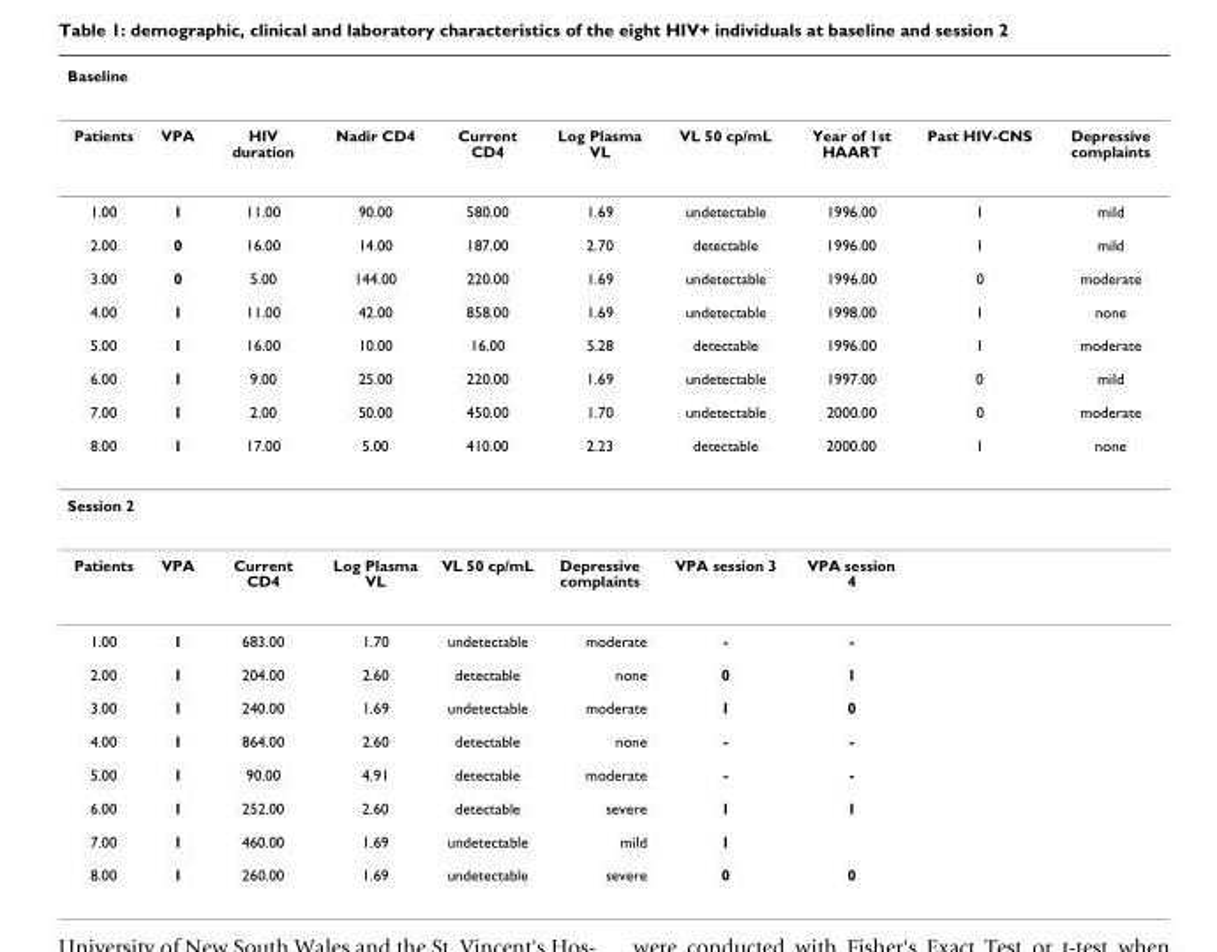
<table><thead><tr><td colspan="10">Baseline</td></tr><tr><td>Patients</td><td>VPA</td><td>HIV duration</td><td>Nadir CD4</td><td>Current CD4</td><td>Log Plasma VL</td><td>VL 50 cp/mL</td><td>Year of 1st HAART</td><td>Past HIV-CNS</td><td>Depressive complaints</td></tr></thead><tbody><tr><td>1.00</td><td>1</td><td>11.00</td><td>90.00</td><td>580.00</td><td>1.69</td><td>undetectable</td><td>1996.00</td><td>1</td><td>mild</td></tr><tr><td>2.00</td><td>0</td><td>16.00</td><td>14.00</td><td>187.00</td><td>2.70</td><td>detectable</td><td>1996.00</td><td>1</td><td>mild</td></tr><tr><td>3.00</td><td>0</td><td>5.00</td><td>144.00</td><td>220.00</td><td>1.69</td><td>undetectable</td><td>1996.00</td><td>0</td><td>moderate</td></tr><tr><td>4.00</td><td>1</td><td>11.00</td><td>42.00</td><td>858.00</td><td>1.69</td><td>undetectable</td><td>1998.00</td><td>1</td><td>none</td></tr><tr><td>5.00</td><td>1</td><td>16.00</td><td>10.00</td><td>16.00</td><td>5.28</td><td>detectable</td><td>1996.00</td><td>1</td><td>moderate</td></tr><tr><td>6.00</td><td>1</td><td>9.00</td><td>25.00</td><td>220.00</td><td>1.69</td><td>undetectable</td><td>1997.00</td><td>0</td><td>mild</td></tr><tr><td>7.00</td><td>1</td><td>2.00</td><td>50.00</td><td>450.00</td><td>1.70</td><td>undetectable</td><td>2000.00</td><td>0</td><td>moderate</td></tr><tr><td>8.00</td><td>1</td><td>17.00</td><td>5.00</td><td>410.00</td><td>2.23</td><td>detectable</td><td>2000.00</td><td>1</td><td>none</td></tr><tr><td colspan="10">Session 2</td></tr><tr><td>Patients</td><td>VPA</td><td>Current CD4</td><td>Log Plasma VL</td><td>VL 50 cp/mL</td><td>Depressive complaints</td><td>VPA session 3</td><td>VPA session 4</td><td></td><td></td></tr><tr><td>1.00</td><td>1</td><td>683.00</td><td>1.70</td><td>undetectable</td><td>moderate</td><td>-</td><td>-</td><td></td><td></td></tr><tr><td>2.00</td><td>1</td><td>204.00</td><td>2.60</td><td>detectable</td><td>none</td><td>0</td><td>1</td><td></td><td></td></tr><tr><td>3.00</td><td>1</td><td>240.00</td><td>1.69</td><td>undetectable</td><td>moderate</td><td>1</td><td>0</td><td></td><td></td></tr><tr><td>4.00</td><td>1</td><td>864.00</td><td>2.60</td><td>detectable</td><td>none</td><td>-</td><td>-</td><td></td><td></td></tr><tr><td>5.00</td><td>1</td><td>90.00</td><td>4.91</td><td>detectable</td><td>moderate</td><td>-</td><td>-</td><td></td><td></td></tr><tr><td>6.00</td><td>1</td><td>252.00</td><td>2.60</td><td>detectable</td><td>severe</td><td>1</td><td>1</td><td></td><td></td></tr><tr><td>7.00</td><td>1</td><td>460.00</td><td>1.69</td><td>undetectable</td><td>mild</td><td>1</td><td></td><td></td><td></td></tr><tr><td>8.00</td><td>1</td><td>260.00</td><td>1.69</td><td>undetectable</td><td>severe</td><td>0</td><td>0</td><td></td><td></td></tr></tbody></table>